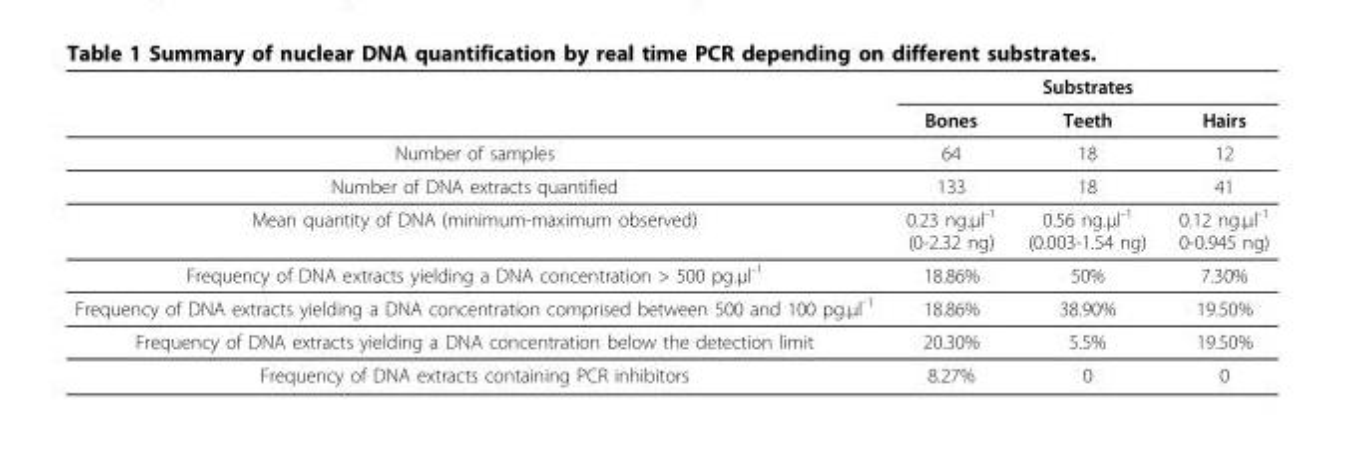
<table><thead><tr><td rowspan="2"></td><td colspan="3">Substrates</td></tr><tr><td>Bones</td><td>Teeth</td><td>Hairs</td></tr></thead><tbody><tr><td>Number of samples</td><td>64</td><td>18</td><td>12</td></tr><tr><td>Number of DNA extracts quantified</td><td>133</td><td>18</td><td>41</td></tr><tr><td>Mean quantity of DNA (minimum-maximum observed)</td><td>0.23 ng.μl<sup>-1</sup> (0-2.32 ng)</td><td>0.56 ng.μl<sup>-1</sup> (0.003-1.54 ng)</td><td>0.12 ng.μl<sup>-1</sup> 0-0.945 ng)</td></tr><tr><td>Frequency of DNA extracts yielding a DNA concentration &gt; 500 pg.μl<sup>-1</sup></td><td>18.86%</td><td>50%</td><td>7.30%</td></tr><tr><td>Frequency of DNA extracts yielding a DNA concentration comprised between 500 and 100 pg.μl<sup>-1</sup></td><td>18.86%</td><td>38.90%</td><td>19.50%</td></tr><tr><td>Frequency of DNA extracts yielding a DNA concentration below the detection limit</td><td>20.30%</td><td>5.5%</td><td>19.50%</td></tr><tr><td>Frequency of DNA extracts containing PCR inhibitors</td><td>8.27%</td><td>0</td><td>0</td></tr></tbody></table>